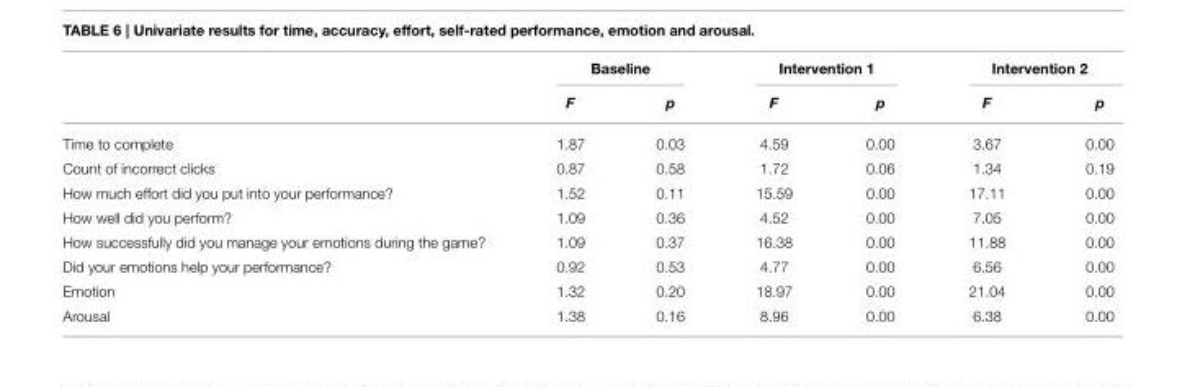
<table><thead><tr><td rowspan="2"></td><td colspan="2">Baseline</td><td colspan="2">Intervention 1</td><td colspan="2">Intervention 2</td></tr><tr><td>F</td><td>p</td><td>F</td><td>p</td><td>F</td><td>p</td></tr></thead><tbody><tr><td>Time to complete</td><td>1.87</td><td>0.03</td><td>4.59</td><td>0.00</td><td>3.67</td><td>0.00</td></tr><tr><td>Count of incorrect clicks</td><td>0.87</td><td>0.58</td><td>1.72</td><td>0.06</td><td>1.34</td><td>0.19</td></tr><tr><td>How much effort did you put into your performance?</td><td>1.52</td><td>0.11</td><td>15.59</td><td>0.00</td><td>17.11</td><td>0.00</td></tr><tr><td>How well did you perform?</td><td>1.09</td><td>0.36</td><td>4.52</td><td>0.00</td><td>7.05</td><td>0.00</td></tr><tr><td>How successfully did you manage your emotions during the game?</td><td>1.09</td><td>0.37</td><td>16.38</td><td>0.00</td><td>11.88</td><td>0.00</td></tr><tr><td>Did your emotions help your performance?</td><td>0.92</td><td>0.53</td><td>4.77</td><td>0.00</td><td>6.56</td><td>0.00</td></tr><tr><td>Emotion</td><td>1.32</td><td>0.20</td><td>18.97</td><td>0.00</td><td>21.04</td><td>0.00</td></tr><tr><td>Arousal</td><td>1.38</td><td>0.16</td><td>8.96</td><td>0.00</td><td>6.38</td><td>0.00</td></tr></tbody></table>